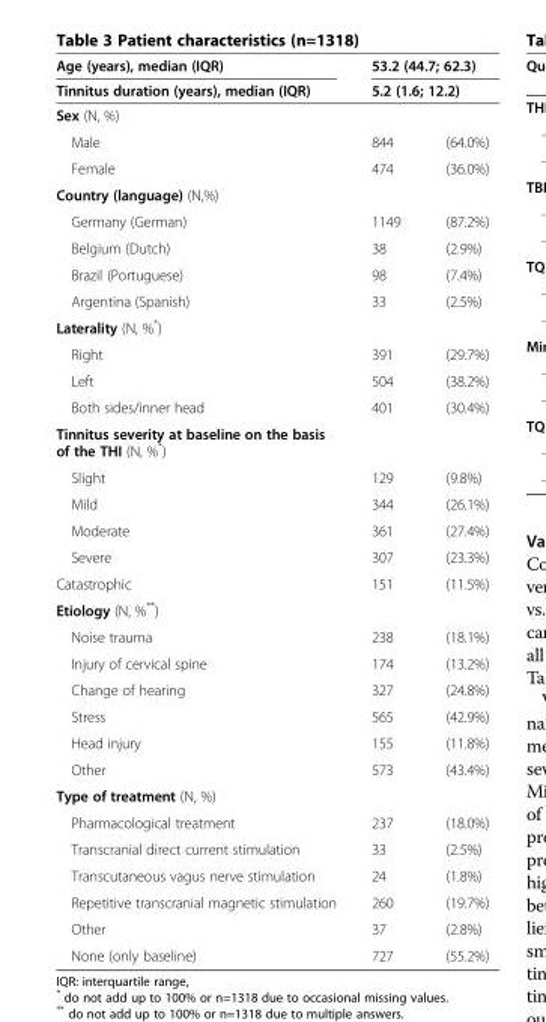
<table><thead><tr><td rowspan="3">Age (years), median (IQR) Tinnitus duration (years), median (IQR) Sex (N, %)</td><td rowspan="2" colspan="2">53.2 (44.7; 62.3) 5.2 (1.6; 12.2)</td></tr><tr></tr><tr><td></td><td></td></tr></thead><tbody><tr><td>Male</td><td>844</td><td>(64.0%)</td></tr><tr><td>Female</td><td>474</td><td>(36.0%)</td></tr><tr><td colspan="3">Country (language) (N,%)</td></tr><tr><td>Germany (German)</td><td>1149</td><td>(87.2%)</td></tr><tr><td>Belgium (Dutch)</td><td>38</td><td>(2.9%)</td></tr><tr><td>Brazil (Portuguese)</td><td>98</td><td>(7.4%)</td></tr><tr><td>Argentina (Spanish)</td><td>33</td><td>(2.5%)</td></tr><tr><td colspan="3">Laterality (N, %*)</td></tr><tr><td>Right</td><td>391</td><td>(29.7%)</td></tr><tr><td>Left</td><td>504</td><td>(38.2%)</td></tr><tr><td>Both sides/inner head</td><td>401</td><td>(30.4%)</td></tr><tr><td colspan="3">Tinnitus severity at baseline on the basis of the THI (N, %*)</td></tr><tr><td>Slight</td><td>129</td><td>(9.8%)</td></tr><tr><td>Mild</td><td>344</td><td>(26.1%)</td></tr><tr><td>Moderate</td><td>361</td><td>(27.4%)</td></tr><tr><td>Severe</td><td>307</td><td>(23.3%)</td></tr><tr><td>Catastrophic</td><td>151</td><td>(11.5%)</td></tr><tr><td colspan="3">Etiology (N, %**)</td></tr><tr><td>Noise trauma</td><td>238</td><td>(18.1%)</td></tr><tr><td>Injury of cervical spine</td><td>174</td><td>(13.2%)</td></tr><tr><td>Change of hearing</td><td>327</td><td>(24.8%)</td></tr><tr><td>Stress</td><td>565</td><td>(42.9%)</td></tr><tr><td>Head injury</td><td>155</td><td>(11.8%)</td></tr><tr><td>Other</td><td>573</td><td>(43.4%)</td></tr><tr><td colspan="3">Type of treatment (N, %)</td></tr><tr><td>Pharmacological treatment</td><td>237</td><td>(18.0%)</td></tr><tr><td>Transcranial direct current stimulation</td><td>33</td><td>(2.5%)</td></tr><tr><td>Transcutaneous vagus nerve stimulation</td><td>24</td><td>(1.8%)</td></tr><tr><td>Repetitive transcranial magnetic stimulation</td><td>260</td><td>(19.7%)</td></tr><tr><td>Other</td><td>37</td><td>(2.8%)</td></tr><tr><td>None (only baseline)</td><td>727</td><td>(55.2%)</td></tr></tbody></table>